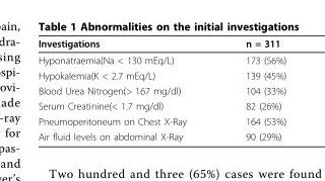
<table><thead><tr><td>Investigations</td><td>n = 311</td></tr></thead><tbody><tr><td>Hyponatraemia(Na &lt; 130 mEq/L)</td><td>173 (56%)</td></tr><tr><td>Hypokalemia(K &lt; 2.7 mEq/L)</td><td>139 (45%)</td></tr><tr><td>Blood Urea Nitrogen(&gt; 167 mg/dl)</td><td>104 (33%)</td></tr><tr><td>Serum Creatinine(&lt; 1.7 mg/dl)</td><td>82 (26%)</td></tr><tr><td>Pneumoperitoneum on Chest X-Ray</td><td>164 (53%)</td></tr><tr><td>Air fluid levels on abdominal X-Ray</td><td>90 (29%)</td></tr></tbody></table>